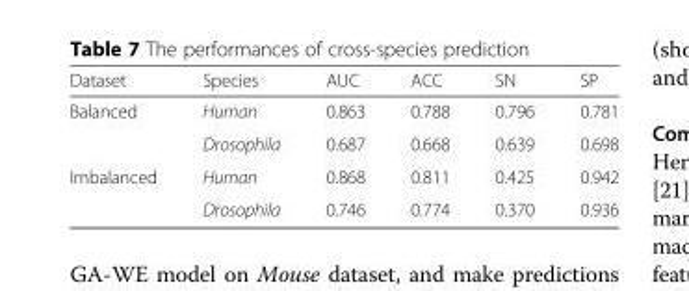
<table><thead><tr><td>Dataset</td><td>Species</td><td>AUC</td><td>ACC</td><td>SN</td><td>SP</td></tr></thead><tbody><tr><td rowspan="2">Balanced</td><td>Human</td><td>0.863</td><td>0.788</td><td>0.796</td><td>0.781</td></tr><tr><td>Drosophila</td><td>0.687</td><td>0.668</td><td>0.639</td><td>0.698</td></tr><tr><td rowspan="2">Imbalanced</td><td>Human</td><td>0.868</td><td>0.811</td><td>0.425</td><td>0.942</td></tr><tr><td>Drosophila</td><td>0.746</td><td>0.774</td><td>0.370</td><td>0.936</td></tr></tbody></table>